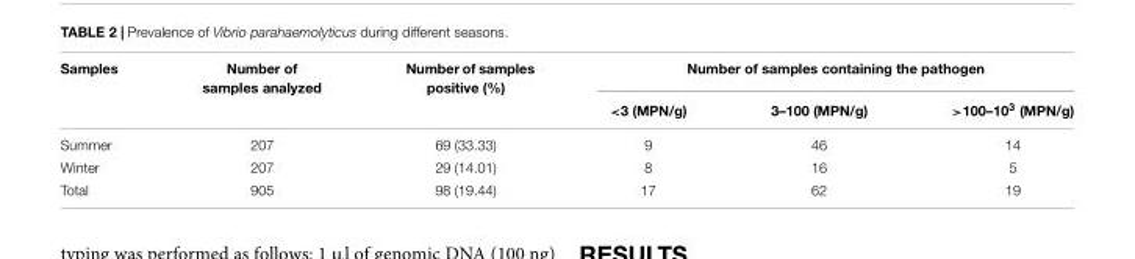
<table><thead><tr><td rowspan="2">Samples</td><td rowspan="2">Number of samples analyzed</td><td rowspan="2">Number of samples positive (%)</td><td colspan="3">Number of samples containing the pathogen</td></tr><tr><td>&lt;3 (MPN/g)</td><td>3–100 (MPN/g)</td><td>&gt;100–10<sup>3</sup> (MPN/g)</td></tr></thead><tbody><tr><td>Summer</td><td>207</td><td>69 (33.33)</td><td>9</td><td>46</td><td>14</td></tr><tr><td>Winter</td><td>207</td><td>29 (14.01)</td><td>8</td><td>16</td><td>5</td></tr><tr><td>Total</td><td>905</td><td>98 (19.44)</td><td>17</td><td>62</td><td>19</td></tr></tbody></table>